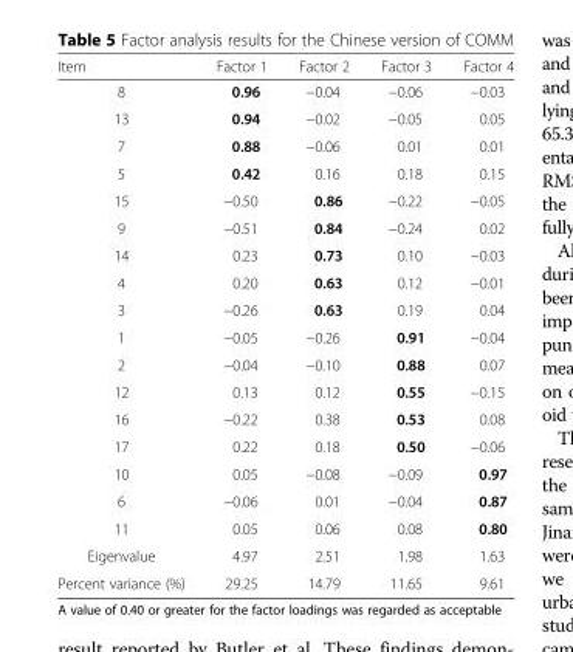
<table><thead><tr><td>Item</td><td>Factor 1</td><td>Factor 2</td><td>Factor 3</td><td>Factor 4</td></tr></thead><tbody><tr><td>8</td><td>0.96</td><td>−0.04</td><td>−0.06</td><td>−0.03</td></tr><tr><td>13</td><td>0.94</td><td>−0.02</td><td>−0.05</td><td>0.05</td></tr><tr><td>7</td><td>0.88</td><td>−0.06</td><td>0.01</td><td>0.01</td></tr><tr><td>5</td><td>0.42</td><td>0.16</td><td>0.18</td><td>0.15</td></tr><tr><td>15</td><td>−0.50</td><td>0.86</td><td>−0.22</td><td>−0.05</td></tr><tr><td>9</td><td>−0.51</td><td>0.84</td><td>−0.24</td><td>0.02</td></tr><tr><td>14</td><td>0.23</td><td>0.73</td><td>0.10</td><td>−0.03</td></tr><tr><td>4</td><td>0.20</td><td>0.63</td><td>0.12</td><td>−0.01</td></tr><tr><td>3</td><td>−0.26</td><td>0.63</td><td>0.19</td><td>0.04</td></tr><tr><td>1</td><td>−0.05</td><td>−0.26</td><td>0.91</td><td>−0.04</td></tr><tr><td>2</td><td>−0.04</td><td>−0.10</td><td>0.88</td><td>0.07</td></tr><tr><td>12</td><td>0.13</td><td>0.12</td><td>0.55</td><td>−0.15</td></tr><tr><td>16</td><td>−0.22</td><td>0.38</td><td>0.53</td><td>0.08</td></tr><tr><td>17</td><td>0.22</td><td>0.18</td><td>0.50</td><td>−0.06</td></tr><tr><td>10</td><td>0.05</td><td>−0.08</td><td>−0.09</td><td>0.97</td></tr><tr><td>6</td><td>−0.06</td><td>0.01</td><td>−0.04</td><td>0.87</td></tr><tr><td>11</td><td>0.05</td><td>0.06</td><td>0.08</td><td>0.80</td></tr><tr><td>Eigenvalue</td><td>4.97</td><td>2.51</td><td>1.98</td><td>1.63</td></tr><tr><td>Percent variance (%)</td><td>29.25</td><td>14.79</td><td>11.65</td><td>9.61</td></tr></tbody></table>